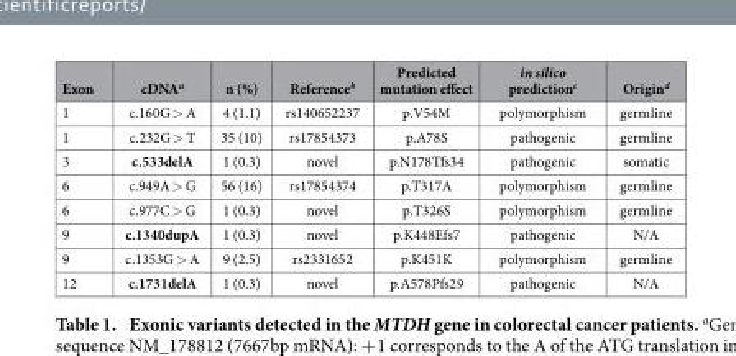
<table><thead><tr><td>Exon</td><td>cDNA<sup>a</sup></td><td>n (%)</td><td>Reference<sup>b</sup></td><td>Predicted mutation effect</td><td>in silico prediction<sup>c</sup></td><td>Origin<sup>d</sup></td></tr></thead><tbody><tr><td>1</td><td>c.160G &gt; A</td><td>4 (1.1)</td><td>rs140652237</td><td>p.V54M</td><td>polymorphism</td><td>germline</td></tr><tr><td>1</td><td>c.232G &gt; T</td><td>35 (10)</td><td>rs17854373</td><td>p.A78S</td><td>pathogenic</td><td>germline</td></tr><tr><td>3</td><td>c.533delA</td><td>1 (0.3)</td><td>novel</td><td>p.N178Tfs34</td><td>pathogenic</td><td>somatic</td></tr><tr><td>6</td><td>c.949A &gt; G</td><td>56 (16)</td><td>rs17854374</td><td>p.T317A</td><td>polymorphism</td><td>germline</td></tr><tr><td>6</td><td>c.977C &gt; G</td><td>1 (0.3)</td><td>novel</td><td>p.T326S</td><td>polymorphism</td><td>germline</td></tr><tr><td>9</td><td>c.1340dupA</td><td>1 (0.3)</td><td>novel</td><td>p.K448Efs7</td><td>pathogenic</td><td>N/A</td></tr><tr><td>9</td><td>c.1353G &gt; A</td><td>9 (2.5)</td><td>rs2331652</td><td>p.K451K</td><td>polymorphism</td><td>germline</td></tr><tr><td>12</td><td>c.1731delA</td><td>1 (0.3)</td><td>novel</td><td>p.A578Pfs29</td><td>pathogenic</td><td>N/A</td></tr></tbody></table>